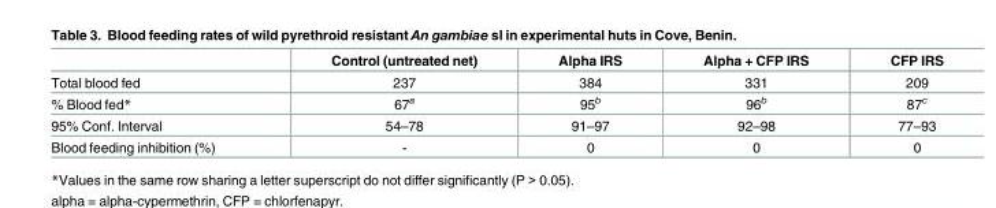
<table><thead><tr><td></td><td>Control (untreated net)</td><td>Alpha IRS</td><td>Alpha + CFP IRS</td><td>CFP IRS</td></tr></thead><tbody><tr><td>Total blood fed</td><td>237</td><td>384</td><td>331</td><td>209</td></tr><tr><td>% Blood fed*</td><td>67<sup>a</sup></td><td>95<sup>b</sup></td><td>96<sup>b</sup></td><td>87<sup>c</sup></td></tr><tr><td>95% Conf. Interval</td><td>54–78</td><td>91–97</td><td>92–98</td><td>77–93</td></tr><tr><td>Blood feeding inhibition (%)</td><td>-</td><td>0</td><td>0</td><td>0</td></tr></tbody></table>